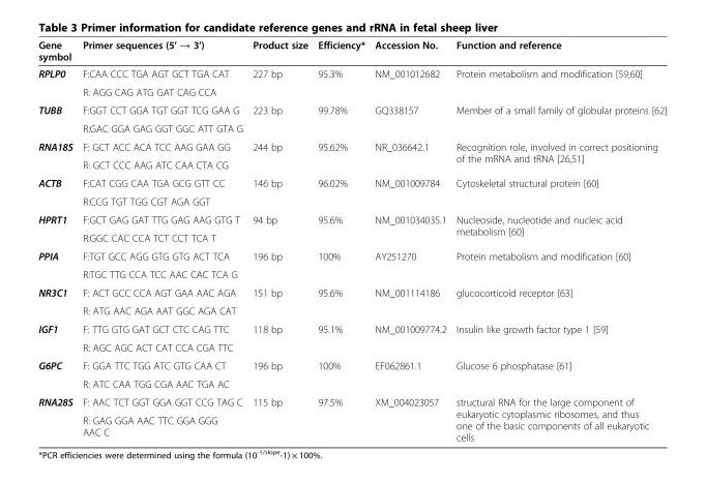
<table><thead><tr><td>Gene symbol</td><td>Primer sequences (5’ → 3’)</td><td>Product size</td><td>Efficiency*</td><td>Accession No.</td><td>Function and reference</td></tr></thead><tbody><tr><td rowspan="2">RPLP0</td><td>F:CAA CCC TGA AGT GCT TGA CAT</td><td rowspan="2">227 bp</td><td rowspan="2">95.3%</td><td rowspan="2">NM_001012682</td><td rowspan="2">Protein metabolism and modification [59,60]</td></tr><tr><td>R: AGG CAG ATG GAT CAG CCA</td></tr><tr><td rowspan="2">TUBB</td><td>F:GGT CCT GGA TGT GGT TCG GAA G</td><td rowspan="2">223 bp</td><td rowspan="2">99.78%</td><td rowspan="2">GQ338157</td><td rowspan="2">Member of a small family of globular proteins [62]</td></tr><tr><td>R:GAC GGA GAG GGT GGC ATT GTA G</td></tr><tr><td rowspan="2">RNA18S</td><td>F: GCT ACC ACA TCC AAG GAA GG</td><td rowspan="2">244 bp</td><td rowspan="2">95.62%</td><td rowspan="2">NR_036642.1</td><td rowspan="2">Recognition role, involved in correct positioning of the mRNA and tRNA [26,51]</td></tr><tr><td>R: GCT CCC AAG ATC CAA CTA CG</td></tr><tr><td rowspan="2">ACTB</td><td>F:CAT CGG CAA TGA GCG GTT CC</td><td rowspan="2">146 bp</td><td rowspan="2">96.02%</td><td rowspan="2">NM_001009784</td><td rowspan="2">Cytoskeletal structural protein [60]</td></tr><tr><td>R:CCG TGT TGG CGT AGA GGT</td></tr><tr><td rowspan="2">HPRT1</td><td>F:GCT GAG GAT TTG GAG AAG GTG T</td><td rowspan="2">94 bp</td><td rowspan="2">95.6%</td><td rowspan="2">NM_001034035.1</td><td rowspan="2">Nucleoside, nucleotide and nucleic acid metabolism [60]</td></tr><tr><td>R:GGC CAC CCA TCT CCT TCA T</td></tr><tr><td rowspan="2">PPIA</td><td>F:TGT GCC AGG GTG GTG ACT TCA</td><td rowspan="2">196 bp</td><td rowspan="2">100%</td><td rowspan="2">AY251270</td><td rowspan="2">Protein metabolism and modification [60]</td></tr><tr><td>R:TGC TTG CCA TCC AAC CAC TCA G</td></tr><tr><td rowspan="2">NR3C1</td><td>F: ACT GCC CCA AGT GAA AAC AGA</td><td rowspan="2">151 bp</td><td rowspan="2">95.6%</td><td rowspan="2">NM_001114186</td><td rowspan="2">glucocorticoid receptor [63]</td></tr><tr><td>R: ATG AAC AGA AAT GGC AGA CAT</td></tr><tr><td rowspan="2">IGF1</td><td>F: TTG GTG GAT GCT CTC CAG TTC</td><td rowspan="2">118 bp</td><td rowspan="2">95.1%</td><td rowspan="2">NM_001009774.2</td><td rowspan="2">Insulin like growth factor type 1 [59]</td></tr><tr><td>R: AGC AGC ACT CAT CCA CGA TTC</td></tr><tr><td rowspan="2">G6PC</td><td>F: GGA TTC TGG ATC GTG CAA CT</td><td rowspan="2">196 bp</td><td rowspan="2">100%</td><td rowspan="2">EF062861.1</td><td rowspan="2">Glucose 6 phosphatase [61]</td></tr><tr><td>R: ATC CAA TGG CGA AAC TGA AC</td></tr><tr><td rowspan="2">RNA28S</td><td>F: AAC TCT GGT GGA GGT CCG TAG C</td><td rowspan="2">115 bp</td><td rowspan="2">97.5%</td><td rowspan="2">XM_004023057</td><td rowspan="2">structural RNA for the large component of eukaryotic cytoplasmic ribosomes, and thus one of the basic components of all eukaryotic cells</td></tr><tr><td>R: GAG GGA AAC TTC GGA GGG AAC C</td></tr></tbody></table>